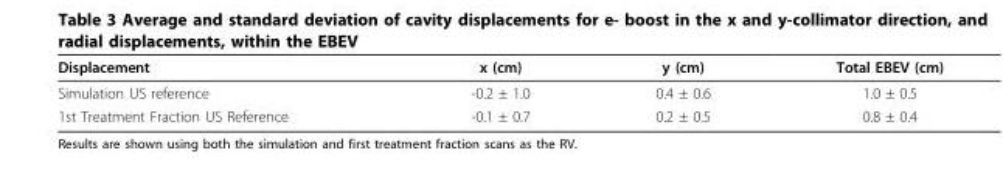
<table><thead><tr><td>Displacement</td><td>x (cm)</td><td>y (cm)</td><td>Total EBEV (cm)</td></tr></thead><tbody><tr><td>Simulation US reference</td><td>-0.2 ± 1.0</td><td>0.4 ± 0.6</td><td>1.0 ± 0.5</td></tr><tr><td>1st Treatment Fraction US Reference</td><td>-0.1 ± 0.7</td><td>0.2 ± 0.5</td><td>0.8 ± 0.4</td></tr></tbody></table>